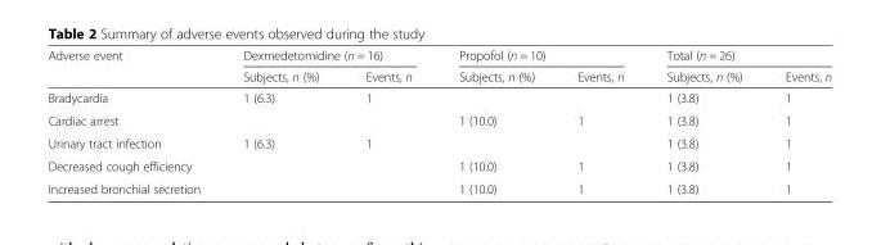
<table><thead><tr><td rowspan="2">Adverse event</td><td colspan="2">Dexmedetomidine (n = 16)</td><td colspan="2">Propofol (n = 10)</td><td colspan="2">Total (n = 26)</td></tr><tr><td>Subjects, n (%)</td><td>Events, n</td><td>Subjects, n (%)</td><td>Events, n</td><td>Subjects, n (%)</td><td>Events, n</td></tr></thead><tbody><tr><td>Bradycardia</td><td>1 (6.3)</td><td>1</td><td></td><td></td><td>1 (3.8)</td><td>1</td></tr><tr><td>Cardiac arrest</td><td></td><td></td><td>1 (10.0)</td><td>1</td><td>1 (3.8)</td><td>1</td></tr><tr><td>Urinary tract infection</td><td>1 (6.3)</td><td>1</td><td></td><td></td><td>1 (3.8)</td><td>1</td></tr><tr><td>Decreased cough efficiency</td><td></td><td></td><td>1 (10.0)</td><td>1</td><td>1 (3.8)</td><td>1</td></tr><tr><td>Increased bronchial secretion</td><td></td><td></td><td>1 (10.0)</td><td>1</td><td>1 (3.8)</td><td>1</td></tr></tbody></table>